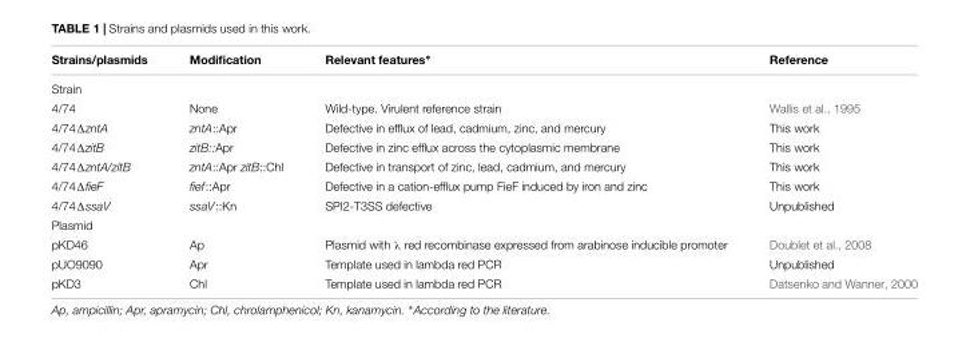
<table><thead><tr><td>Strains/plasmids</td><td>Modification</td><td>Relevant features∗</td><td>Reference</td></tr></thead><tbody><tr><td colspan="4">Strain</td></tr><tr><td>4/74</td><td>None</td><td>Wild-type. Virulent reference strain</td><td>Wallis et al., 1995</td></tr><tr><td>4/74ΔzntA</td><td>zntA::Apr</td><td>Defective in efflux of lead, cadmium, zinc, and mercury</td><td>This work</td></tr><tr><td>4/74ΔzitB</td><td>zitB::Apr</td><td>Defective in zinc efflux across the cytoplasmic membrane</td><td>This work</td></tr><tr><td>4/74ΔzntA/zitB</td><td>zntA::Apr zitB::Chl</td><td>Defective in transport of zinc, lead, cadmium, and mercury</td><td>This work</td></tr><tr><td>4/74ΔfieF</td><td>fief::Apr</td><td>Defective in a cation-efflux pump FieF induced by iron and zinc</td><td>This work</td></tr><tr><td>4/74ΔssaV</td><td>ssaV::Kn</td><td>SPI2-T3SS defective</td><td>Unpublished</td></tr><tr><td colspan="4">Plasmid</td></tr><tr><td>pKD46</td><td>Ap</td><td>Plasmid with λ red recombinase expressed from arabinose inducible promoter</td><td>Doublet et al., 2008</td></tr><tr><td>pUO9090</td><td>Apr</td><td>Template used in lambda red PCR</td><td>Unpublished</td></tr><tr><td>pKD3</td><td>Chl</td><td>Template used in lambda red PCR</td><td>Datsenko and Wanner, 2000</td></tr></tbody></table>